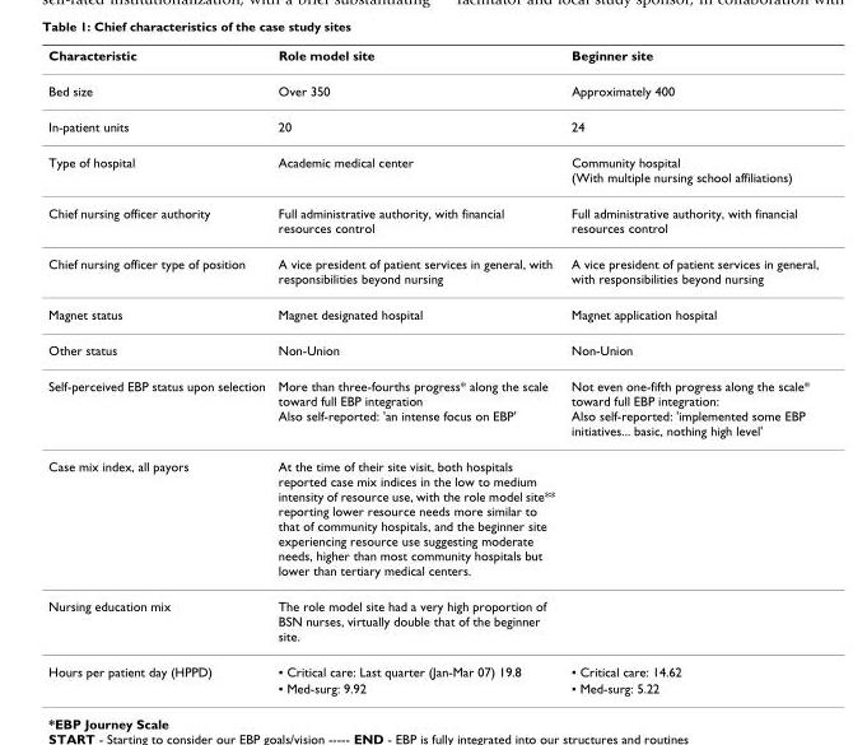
<table><thead><tr><td>Characteristic</td><td>Role model site</td><td>Beginner site</td></tr></thead><tbody><tr><td>Bed size</td><td>Over 350</td><td>Approximately 400</td></tr><tr><td>In-patient units</td><td>20</td><td>24</td></tr><tr><td>Type of hospital</td><td>Academic medical center</td><td>Community hospital (With multiple nursing school affiliations)</td></tr><tr><td>Chief nursing officer authority</td><td>Full administrative authority, with financial resources control</td><td>Full administrative authority, with financial resources control</td></tr><tr><td>Chief nursing officer type of position</td><td>A vice president of patient services in general, with responsibilities beyond nursing</td><td>A vice president of patient services in general, with responsibilities beyond nursing</td></tr><tr><td>Magnet status</td><td>Magnet designated hospital</td><td>Magnet application hospital</td></tr><tr><td>Other status</td><td>Non-Union</td><td>Non-Union</td></tr><tr><td>Self-perceived EBP status upon selection</td><td>More than three-fourths progress* along the scale toward full EBP integration Also self-reported: &#x27;an intense focus on EBP&#x27;</td><td>Not even one-fifth progress along the scale* toward full EBP integration: Also self-reported: &#x27;implemented some EBP initiatives... basic, nothing high level&#x27;</td></tr><tr><td>Case mix index, all payors</td><td>At the time of their site visit, both hospitals reported case mix indices in the low to medium intensity of resource use, with the role model site** reporting lower resource needs more similar to that of community hospitals, and the beginner site experiencing resource use suggesting moderate needs, higher than most community hospitals but lower than tertiary medical centers.</td><td></td></tr><tr><td>Nursing education mix</td><td>The role model site had a very high proportion of BSN nurses, virtually double that of the beginner site.</td><td></td></tr><tr><td rowspan="2">Hours per patient day (HPPD)</td><td>▪ Critical care: Last quarter (Jan-Mar 07) 19.8</td><td>▪ Critical care: 14.62</td></tr><tr><td>▪ Med-surg: 9.92</td><td>▪ Med-surg: 5.22</td></tr></tbody></table>